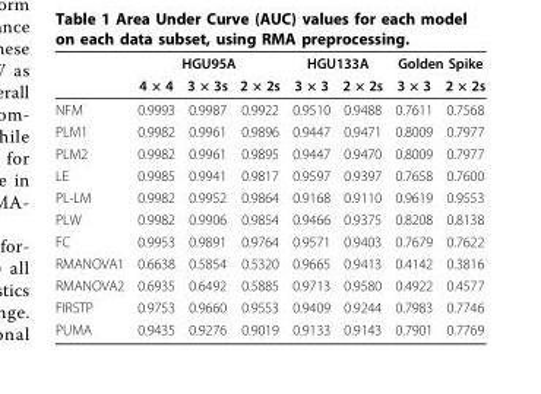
<table><thead><tr><td rowspan="2"></td><td colspan="3">HGU95A</td><td colspan="2">HGU133A</td><td colspan="2">Golden Spike</td></tr><tr><td>4 × 4</td><td>3 × 3s</td><td>2 × 2s</td><td>3 × 3</td><td>2 × 2s</td><td>3 × 3</td><td>2 × 2s</td></tr></thead><tbody><tr><td>NFM</td><td>0.9993</td><td>0.9987</td><td>0.9922</td><td>0.9510</td><td>0.9488</td><td>0.7611</td><td>0.7568</td></tr><tr><td>PLM1</td><td>0.9982</td><td>0.9961</td><td>0.9896</td><td>0.9447</td><td>0.9471</td><td>0.8009</td><td>0.7977</td></tr><tr><td>PLM2</td><td>0.9982</td><td>0.9961</td><td>0.9895</td><td>0.9447</td><td>0.9470</td><td>0.8009</td><td>0.7977</td></tr><tr><td>LE</td><td>0.9985</td><td>0.9941</td><td>0.9817</td><td>0.9597</td><td>0.9397</td><td>0.7658</td><td>0.7600</td></tr><tr><td>PL-LM</td><td>0.9982</td><td>0.9952</td><td>0.9864</td><td>0.9168</td><td>0.9110</td><td>0.9619</td><td>0.9553</td></tr><tr><td>PLW</td><td>0.9982</td><td>0.9906</td><td>0.9854</td><td>0.9466</td><td>0.9375</td><td>0.8208</td><td>0.8138</td></tr><tr><td>FC</td><td>0.9953</td><td>0.9891</td><td>0.9764</td><td>0.9571</td><td>0.9403</td><td>0.7679</td><td>0.7622</td></tr><tr><td>RMANOVA1</td><td>0.6638</td><td>0.5854</td><td>0.5320</td><td>0.9665</td><td>0.9413</td><td>0.4142</td><td>0.3816</td></tr><tr><td>RMANOVA2</td><td>0.6935</td><td>0.6492</td><td>0.5885</td><td>0.9713</td><td>0.9580</td><td>0.4922</td><td>0.4577</td></tr><tr><td>FIRSTP</td><td>0.9753</td><td>0.9660</td><td>0.9553</td><td>0.9409</td><td>0.9244</td><td>0.7983</td><td>0.7746</td></tr><tr><td>PUMA</td><td>0.9435</td><td>0.9276</td><td>0.9019</td><td>0.9133</td><td>0.9143</td><td>0.7901</td><td>0.7769</td></tr></tbody></table>